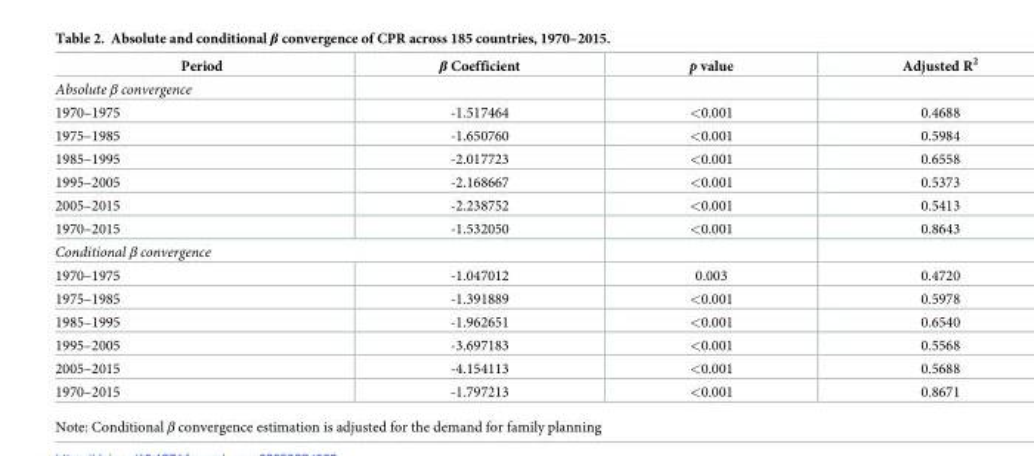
<table><thead><tr><td>Period</td><td>β Coefficient</td><td>p value</td><td>Adjusted R<sup>2</sup></td></tr></thead><tbody><tr><td colspan="4">Absolute β convergence</td></tr><tr><td>1970–1975</td><td>-1.517464</td><td>&lt;0.001</td><td>0.4688</td></tr><tr><td>1975–1985</td><td>-1.650760</td><td>&lt;0.001</td><td>0.5984</td></tr><tr><td>1985–1995</td><td>-2.017723</td><td>&lt;0.001</td><td>0.6558</td></tr><tr><td>1995–2005</td><td>-2.168667</td><td>&lt;0.001</td><td>0.5373</td></tr><tr><td>2005–2015</td><td>-2.238752</td><td>&lt;0.001</td><td>0.5413</td></tr><tr><td>1970–2015</td><td>-1.532050</td><td>&lt;0.001</td><td>0.8643</td></tr><tr><td colspan="4">Conditional β convergence</td></tr><tr><td>1970–1975</td><td>-1.047012</td><td>0.003</td><td>0.4720</td></tr><tr><td>1975–1985</td><td>-1.391889</td><td>&lt;0.001</td><td>0.5978</td></tr><tr><td>1985–1995</td><td>-1.962651</td><td>&lt;0.001</td><td>0.6540</td></tr><tr><td>1995–2005</td><td>-3.697183</td><td>&lt;0.001</td><td>0.5568</td></tr><tr><td>2005–2015</td><td>-4.154113</td><td>&lt;0.001</td><td>0.5688</td></tr><tr><td>1970–2015</td><td>-1.797213</td><td>&lt;0.001</td><td>0.8671</td></tr></tbody></table>